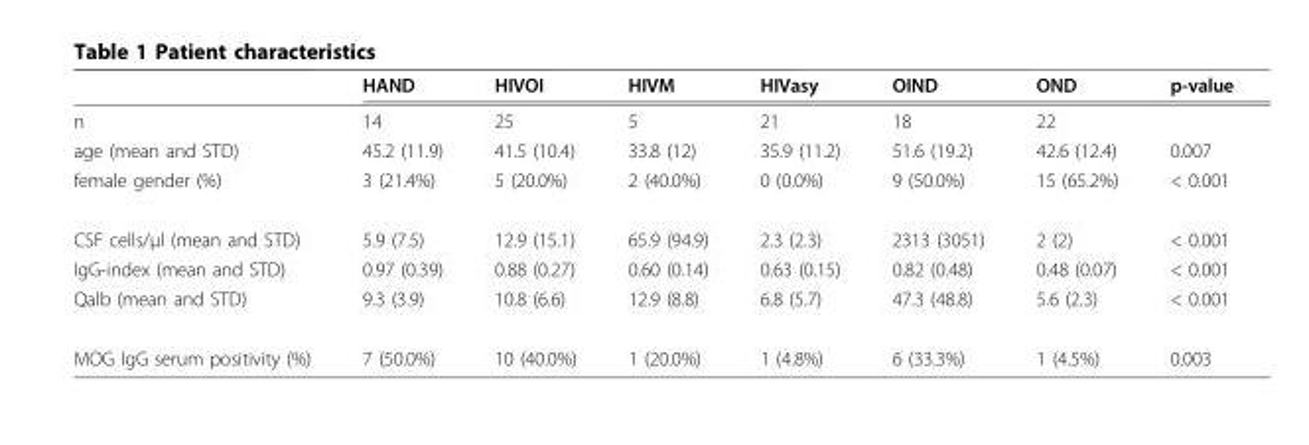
<table><thead><tr><td></td><td>HAND</td><td>HIVOI</td><td>HIVM</td><td>HIVasy</td><td>OIND</td><td>OND</td><td>p-value</td></tr></thead><tbody><tr><td>n</td><td>14</td><td>25</td><td>5</td><td>21</td><td>18</td><td>22</td><td></td></tr><tr><td>age (mean and STD)</td><td>45.2 (11.9)</td><td>41.5 (10.4)</td><td>33.8 (12)</td><td>35.9 (11.2)</td><td>51.6 (19.2)</td><td>42.6 (12.4)</td><td>0.007</td></tr><tr><td>female gender (%)</td><td>3 (21.4%)</td><td>5 (20.0%)</td><td>2 (40.0%)</td><td>0 (0.0%)</td><td>9 (50.0%)</td><td>15 (65.2%)</td><td>&lt; 0.001</td></tr><tr><td>CSF cells/μl (mean and STD)</td><td>5.9 (7.5)</td><td>12.9 (15.1)</td><td>65.9 (94.9)</td><td>2.3 (2.3)</td><td>2313 (3051)</td><td>2 (2)</td><td>&lt; 0.001</td></tr><tr><td>IgG-index (mean and STD)</td><td>0.97 (0.39)</td><td>0.88 (0.27)</td><td>0.60 (0.14)</td><td>0.63 (0.15)</td><td>0.82 (0.48)</td><td>0.48 (0.07)</td><td>&lt; 0.001</td></tr><tr><td>Qalb (mean and STD)</td><td>9.3 (3.9)</td><td>10.8 (6.6)</td><td>12.9 (8.8)</td><td>6.8 (5.7)</td><td>47.3 (48.8)</td><td>5.6 (2.3)</td><td>&lt; 0.001</td></tr><tr><td>MOG IgG serum positivity (%)</td><td>7 (50.0%)</td><td>10 (40.0%)</td><td>1 (20.0%)</td><td>1 (4.8%)</td><td>6 (33.3%)</td><td>1 (4.5%)</td><td>0.003</td></tr></tbody></table>